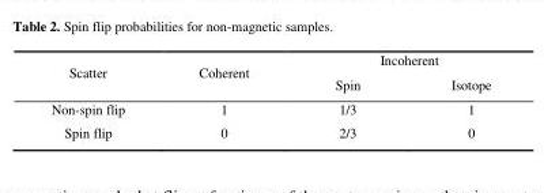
<table><thead><tr><td rowspan="2">Scatter</td><td rowspan="2">Coherent</td><td colspan="2">Incoherent</td></tr><tr><td>Spin</td><td>Isotope</td></tr></thead><tbody><tr><td>Non-spin flip</td><td>1</td><td>1/3</td><td>1</td></tr><tr><td>Spin flip</td><td>0</td><td>2/3</td><td>0</td></tr></tbody></table>